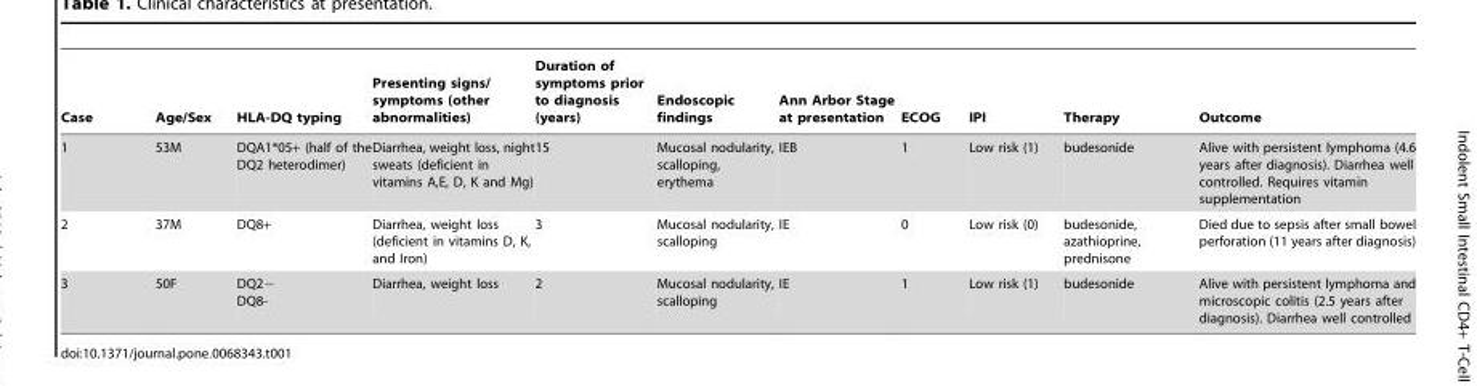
<table><thead><tr><td>Case</td><td>Age/Sex</td><td>HLA-DQ typing</td><td>Presenting signs/ symptoms (other abnormalities)</td><td>Duration of symptoms prior to diagnosis (years)</td><td>Endoscopic findings</td><td>Ann Arbor Stage at presentation</td><td>ECOG</td><td>IPI</td><td>Therapy</td><td>Outcome</td></tr></thead><tbody><tr><td>1</td><td>53M</td><td>DQA1*05+ (half of the DQ2 heterodimer)</td><td>Diarrhea, weight loss, night sweats (deficient in vitamins A,E, D, K and Mg)</td><td>15</td><td>Mucosal nodularity, scalloping, erythema</td><td>IEB</td><td>1</td><td>Low risk (1)</td><td>budesonide</td><td>Alive with persistent lymphoma (4.6 years after diagnosis). Diarrhea well controlled. Requires vitamin supplementation</td></tr><tr><td>2</td><td>37M</td><td>DQ8+</td><td>Diarrhea, weight loss (deficient in vitamins D, K, and Iron)</td><td>3</td><td>Mucosal nodularity, scalloping</td><td>IE</td><td>0</td><td>Low risk (0)</td><td>budesonide, azathioprine, prednisone</td><td>Died due to sepsis after small bowel perforation (11 years after diagnosis)</td></tr><tr><td>3</td><td>50F</td><td>DQ2− DQ8-</td><td>Diarrhea, weight loss</td><td>2</td><td>Mucosal nodularity, scalloping</td><td>IE</td><td>1</td><td>Low risk (1)</td><td>budesonide</td><td>Alive with persistent lymphoma and microscopic colitis (2.5 years after diagnosis). Diarrhea well controlled</td></tr></tbody></table>